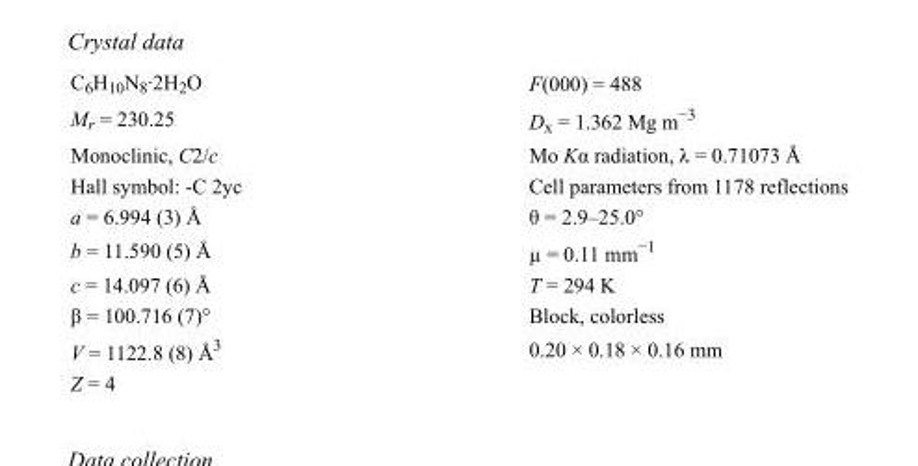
<table><tbody><tr><td>C<sub>6</sub>H<sub>10</sub>N<sub>8</sub>·2H<sub>2</sub>O</td><td>F(000) = 488</td></tr><tr><td>M<sub>r</sub> = 230.25</td><td>D<sub>x</sub> = 1.362 Mg m<sup>−3</sup></td></tr><tr><td>Monoclinic, C2/c</td><td>Mo Kα radiation, λ = 0.71073 Å</td></tr><tr><td>Hall symbol: -C 2yc</td><td>Cell parameters from 1178 reflections</td></tr><tr><td>a = 6.994 (3) Å</td><td>θ = 2.9–25.0°</td></tr><tr><td>b = 11.590 (5) Å</td><td>µ = 0.11 mm<sup>−1</sup></td></tr><tr><td>c = 14.097 (6) Å</td><td>T = 294 K</td></tr><tr><td>β = 100.716 (7)°</td><td>Block, colorless</td></tr><tr><td>V = 1122.8 (8) Å<sup>3</sup></td><td>0.20 × 0.18 × 0.16 mm</td></tr><tr><td>Z = 4</td><td></td></tr></tbody></table>